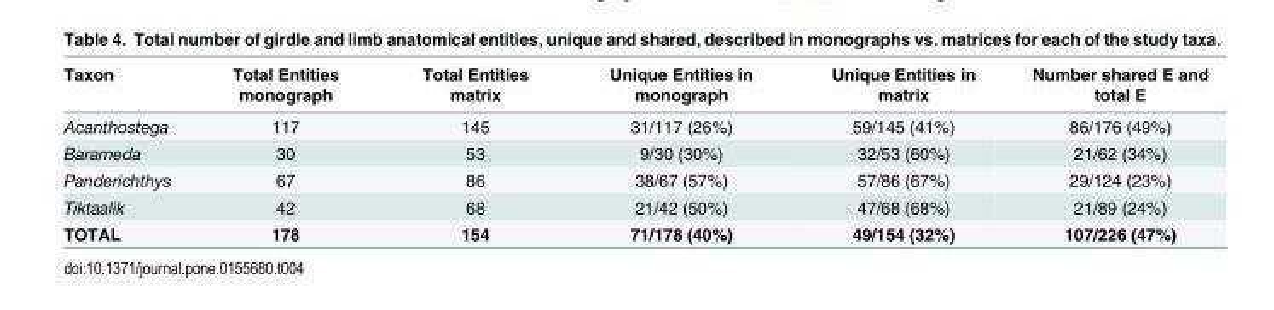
<table><thead><tr><td>Taxon</td><td>Total Entities monograph</td><td>Total Entities matrix</td><td>Unique Entities in monograph</td><td>Unique Entities in matrix</td><td>Number shared E and total E</td></tr></thead><tbody><tr><td>Acanthostega</td><td>117</td><td>145</td><td>31/117 (26%)</td><td>59/145 (41%)</td><td>86/176 (49%)</td></tr><tr><td>Barameda</td><td>30</td><td>53</td><td>9/30 (30%)</td><td>32/53 (60%)</td><td>21/62 (34%)</td></tr><tr><td>Panderichthys</td><td>67</td><td>86</td><td>38/67 (57%)</td><td>57/86 (67%)</td><td>29/124 (23%)</td></tr><tr><td>Tiktaalik</td><td>42</td><td>68</td><td>21/42 (50%)</td><td>47/68 (68%)</td><td>21/89 (24%)</td></tr><tr><td>TOTAL</td><td>178</td><td>154</td><td>71/178 (40%)</td><td>49/154 (32%)</td><td>107/226 (47%)</td></tr></tbody></table>